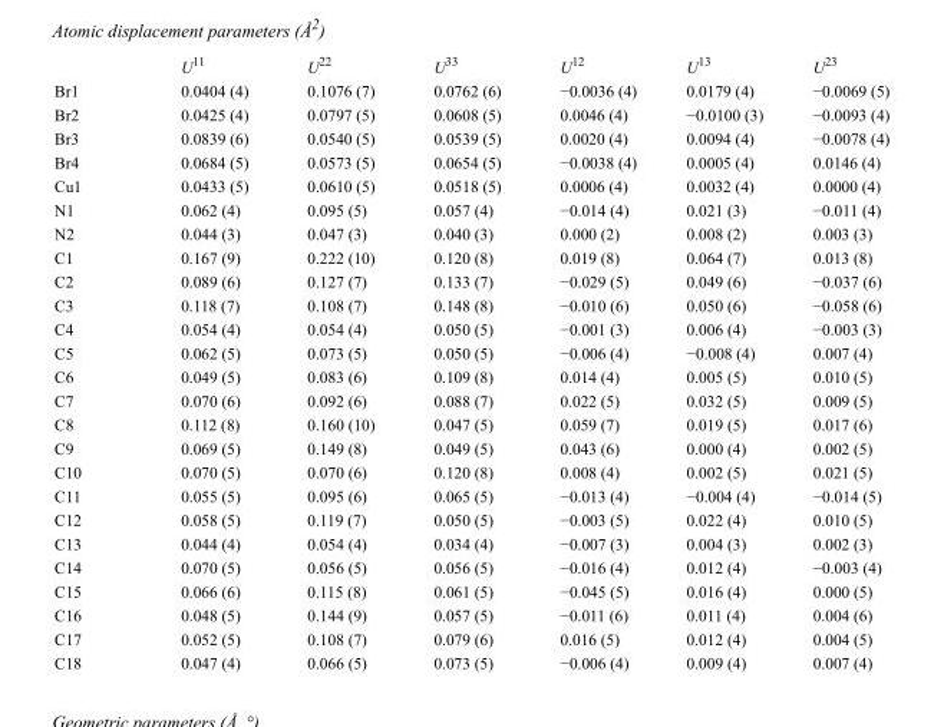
<table><thead><tr><td></td><td>U<sup>11</sup></td><td>U<sup>22</sup></td><td>U<sup>33</sup></td><td>U<sup>12</sup></td><td>U<sup>13</sup></td><td>U<sup>23</sup></td></tr></thead><tbody><tr><td>Br1</td><td>0.0404 (4)</td><td>0.1076 (7)</td><td>0.0762 (6)</td><td>−0.0036 (4)</td><td>0.0179 (4)</td><td>−0.0069 (5)</td></tr><tr><td>Br2</td><td>0.0425 (4)</td><td>0.0797 (5)</td><td>0.0608 (5)</td><td>0.0046 (4)</td><td>−0.0100 (3)</td><td>−0.0093 (4)</td></tr><tr><td>Br3</td><td>0.0839 (6)</td><td>0.0540 (5)</td><td>0.0539 (5)</td><td>0.0020 (4)</td><td>0.0094 (4)</td><td>−0.0078 (4)</td></tr><tr><td>Br4</td><td>0.0684 (5)</td><td>0.0573 (5)</td><td>0.0654 (5)</td><td>−0.0038 (4)</td><td>0.0005 (4)</td><td>0.0146 (4)</td></tr><tr><td>Cu1</td><td>0.0433 (5)</td><td>0.0610 (5)</td><td>0.0518 (5)</td><td>0.0006 (4)</td><td>0.0032 (4)</td><td>0.0000 (4)</td></tr><tr><td>N1</td><td>0.062 (4)</td><td>0.095 (5)</td><td>0.057 (4)</td><td>−0.014 (4)</td><td>0.021 (3)</td><td>−0.011 (4)</td></tr><tr><td>N2</td><td>0.044 (3)</td><td>0.047 (3)</td><td>0.040 (3)</td><td>0.000 (2)</td><td>0.008 (2)</td><td>0.003 (3)</td></tr><tr><td>C1</td><td>0.167 (9)</td><td>0.222 (10)</td><td>0.120 (8)</td><td>0.019 (8)</td><td>0.064 (7)</td><td>0.013 (8)</td></tr><tr><td>C2</td><td>0.089 (6)</td><td>0.127 (7)</td><td>0.133 (7)</td><td>−0.029 (5)</td><td>0.049 (6)</td><td>−0.037 (6)</td></tr><tr><td>C3</td><td>0.118 (7)</td><td>0.108 (7)</td><td>0.148 (8)</td><td>−0.010 (6)</td><td>0.050 (6)</td><td>−0.058 (6)</td></tr><tr><td>C4</td><td>0.054 (4)</td><td>0.054 (4)</td><td>0.050 (5)</td><td>−0.001 (3)</td><td>0.006 (4)</td><td>−0.003 (3)</td></tr><tr><td>C5</td><td>0.062 (5)</td><td>0.073 (5)</td><td>0.050 (5)</td><td>−0.006 (4)</td><td>−0.008 (4)</td><td>0.007 (4)</td></tr><tr><td>C6</td><td>0.049 (5)</td><td>0.083 (6)</td><td>0.109 (8)</td><td>0.014 (4)</td><td>0.005 (5)</td><td>0.010 (5)</td></tr><tr><td>C7</td><td>0.070 (6)</td><td>0.092 (6)</td><td>0.088 (7)</td><td>0.022 (5)</td><td>0.032 (5)</td><td>0.009 (5)</td></tr><tr><td>C8</td><td>0.112 (8)</td><td>0.160 (10)</td><td>0.047 (5)</td><td>0.059 (7)</td><td>0.019 (5)</td><td>0.017 (6)</td></tr><tr><td>C9</td><td>0.069 (5)</td><td>0.149 (8)</td><td>0.049 (5)</td><td>0.043 (6)</td><td>0.000 (4)</td><td>0.002 (5)</td></tr><tr><td>C10</td><td>0.070 (5)</td><td>0.070 (6)</td><td>0.120 (8)</td><td>0.008 (4)</td><td>0.002 (5)</td><td>0.021 (5)</td></tr><tr><td>C11</td><td>0.055 (5)</td><td>0.095 (6)</td><td>0.065 (5)</td><td>−0.013 (4)</td><td>−0.004 (4)</td><td>−0.014 (5)</td></tr><tr><td>C12</td><td>0.058 (5)</td><td>0.119 (7)</td><td>0.050 (5)</td><td>−0.003 (5)</td><td>0.022 (4)</td><td>0.010 (5)</td></tr><tr><td>C13</td><td>0.044 (4)</td><td>0.054 (4)</td><td>0.034 (4)</td><td>−0.007 (3)</td><td>0.004 (3)</td><td>0.002 (3)</td></tr><tr><td>C14</td><td>0.070 (5)</td><td>0.056 (5)</td><td>0.056 (5)</td><td>−0.016 (4)</td><td>0.012 (4)</td><td>−0.003 (4)</td></tr><tr><td>C15</td><td>0.066 (6)</td><td>0.115 (8)</td><td>0.061 (5)</td><td>−0.045 (5)</td><td>0.016 (4)</td><td>0.000 (5)</td></tr><tr><td>C16</td><td>0.048 (5)</td><td>0.144 (9)</td><td>0.057 (5)</td><td>−0.011 (6)</td><td>0.011 (4)</td><td>0.004 (6)</td></tr><tr><td>C17</td><td>0.052 (5)</td><td>0.108 (7)</td><td>0.079 (6)</td><td>0.016 (5)</td><td>0.012 (4)</td><td>0.004 (5)</td></tr><tr><td>C18</td><td>0.047 (4)</td><td>0.066 (5)</td><td>0.073 (5)</td><td>−0.006 (4)</td><td>0.009 (4)</td><td>0.007 (4)</td></tr></tbody></table>